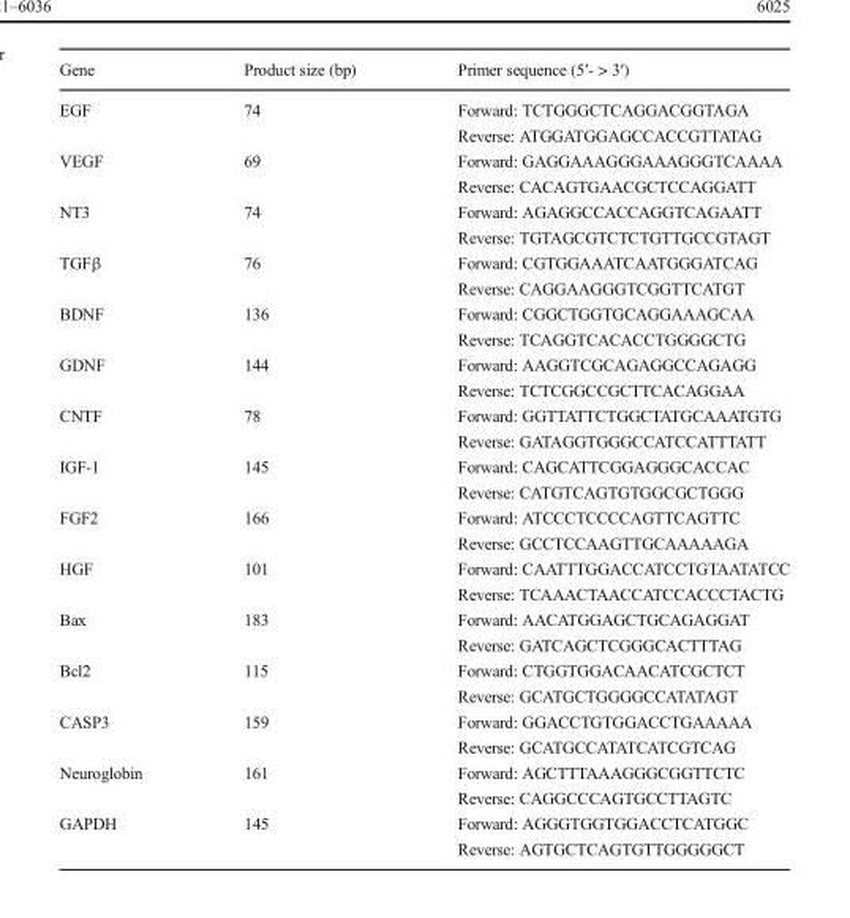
<table><thead><tr><td>Gene</td><td>Product size (bp)</td><td>Primer sequence (5′- &gt; 3′)</td></tr></thead><tbody><tr><td>EGF</td><td>74</td><td>Forward: TCTGGGCTCAGGACGGTAGA Reverse: ATGGATGGAGCCACCGTTATAG</td></tr><tr><td>VEGF</td><td>69</td><td>Forward: GAGGAAAGGGAAAGGGTCAAAA Reverse: CACAGTGAACGCTCCAGGATT</td></tr><tr><td>NT3</td><td>74</td><td>Forward: AGAGGCCACCAGGTCAGAATT Reverse: TGTAGCGTCTCTGTTGCCGTAGT</td></tr><tr><td>TGFβ</td><td>76</td><td>Forward: CGTGGAAATCAATGGGATCAG Reverse: CAGGAAGGGTCGGTTCATGT</td></tr><tr><td>BDNF</td><td>136</td><td>Forward: CGGCTGGTGCAGGAAAGCAA Reverse: TCAGGTCACACCTGGGGCTG</td></tr><tr><td>GDNF</td><td>144</td><td>Forward: AAGGTCGCAGAGGCCAGAGG Reverse: TCTCGGCCGCTTCACAGGAA</td></tr><tr><td>CNTF</td><td>78</td><td>Forward: GGTTATTCTGGCTATGCAAATGTG Reverse: GATAGGTGGGCCATCCATTTATT</td></tr><tr><td>IGF-1</td><td>145</td><td>Forward: CAGCATTCGGAGGGCACCAC Reverse: CATGTCAGTGTGGCGCTGGG</td></tr><tr><td>FGF2</td><td>166</td><td>Forward: ATCCCTCCCCAGTTCAGTTC Reverse: GCCTCCAAGTTGCAAAAAGA</td></tr><tr><td>HGF</td><td>101</td><td>Forward: CAATTTGGACCATCCTGTAATATCC Reverse: TCAAACTAACCATCCACCCTACTG</td></tr><tr><td>Bax</td><td>183</td><td>Forward: AACATGGAGCTGCAGAGGAT Reverse: GATCAGCTCGGGCACTTTAG</td></tr><tr><td>Bcl2</td><td>115</td><td>Forward: CTGGTGGACAACATCGCTCT Reverse: GCATGCTGGGGCCATATAGT</td></tr><tr><td>CASP3</td><td>159</td><td>Forward: GGACCTGTGGACCTGAAAAA Reverse: GCATGCCATATCATCGTCAG</td></tr><tr><td>Neuroglobin</td><td>161</td><td>Forward: AGCTTTAAAGGGCGGTTCTC Reverse: CAGGCCCAGTGCCTTAGTC</td></tr><tr><td>GAPDH</td><td>145</td><td>Forward: AGGGTGGTGGACCTCATGGC Reverse: AGTGCTCAGTGTTGGGGGCT</td></tr></tbody></table>